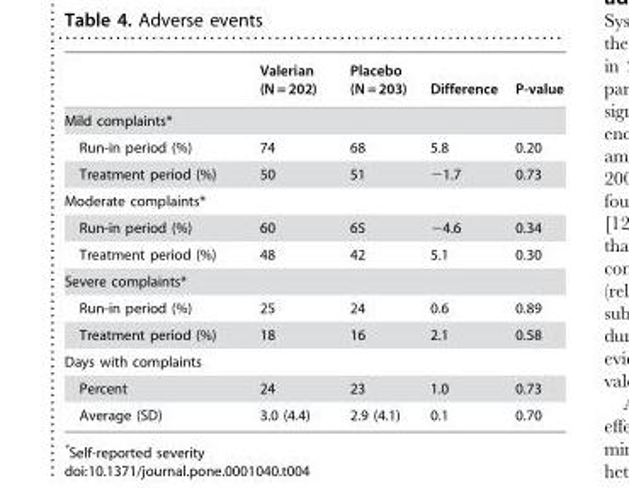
<table><thead><tr><td></td><td>Valerian (N = 202)</td><td>Placebo (N = 203)</td><td>Difference</td><td>P-value</td></tr></thead><tbody><tr><td colspan="5">Mild complaints*</td></tr><tr><td>Run-in period (%)</td><td>74</td><td>68</td><td>5.8</td><td>0.20</td></tr><tr><td>Treatment period (%)</td><td>50</td><td>51</td><td>−1.7</td><td>0.73</td></tr><tr><td colspan="5">Moderate complaints*</td></tr><tr><td>Run-in period (%)</td><td>60</td><td>65</td><td>−4.6</td><td>0.34</td></tr><tr><td>Treatment period (%)</td><td>48</td><td>42</td><td>5.1</td><td>0.30</td></tr><tr><td colspan="5">Severe complaints*</td></tr><tr><td>Run-in period (%)</td><td>25</td><td>24</td><td>0.6</td><td>0.89</td></tr><tr><td>Treatment period (%)</td><td>18</td><td>16</td><td>2.1</td><td>0.58</td></tr><tr><td colspan="5">Days with complaints</td></tr><tr><td>Percent</td><td>24</td><td>23</td><td>1.0</td><td>0.73</td></tr><tr><td>Average (SD)</td><td>3.0 (4.4)</td><td>2.9 (4.1)</td><td>0.1</td><td>0.70</td></tr></tbody></table>